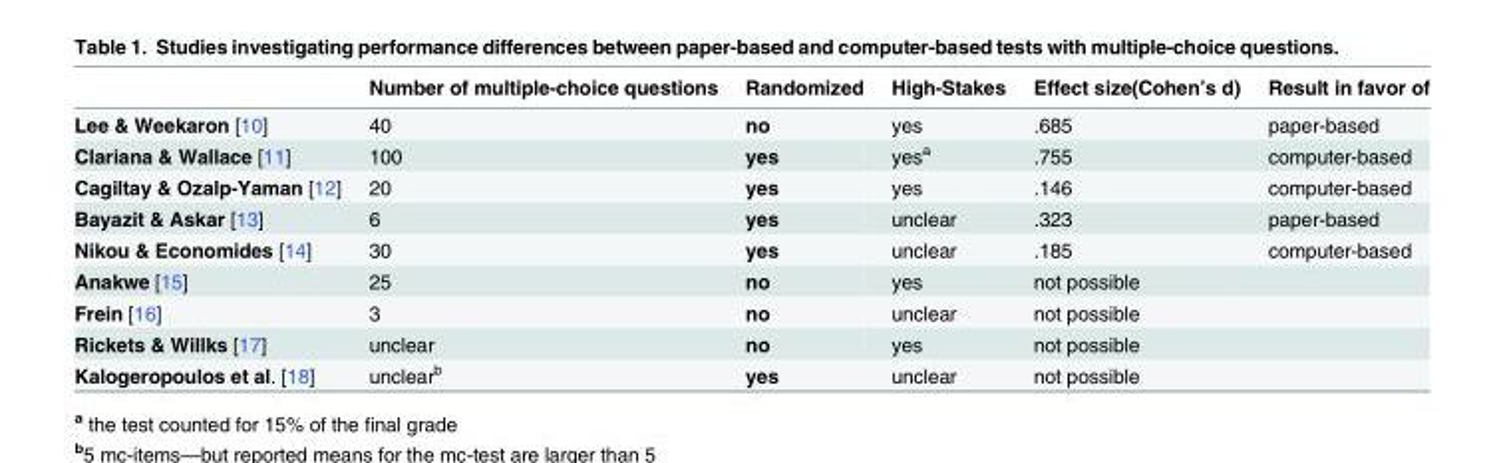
<table><thead><tr><td></td><td>Number of multiple-choice questions</td><td>Randomized</td><td>High-Stakes</td><td>Effect size(Cohen’s d)</td><td>Result in favor of</td></tr></thead><tbody><tr><td>Lee &amp; Weekaron [10]</td><td>40</td><td>no</td><td>yes</td><td>.685</td><td>paper-based</td></tr><tr><td>Clariana &amp; Wallace [11]</td><td>100</td><td>yes</td><td>yes<sup>a</sup></td><td>.755</td><td>computer-based</td></tr><tr><td>Cagiltay &amp; Ozalp-Yaman [12]</td><td>20</td><td>yes</td><td>yes</td><td>.146</td><td>computer-based</td></tr><tr><td>Bayazit &amp; Askar [13]</td><td>6</td><td>yes</td><td>unclear</td><td>.323</td><td>paper-based</td></tr><tr><td>Nikou &amp; Economides [14]</td><td>30</td><td>yes</td><td>unclear</td><td>.185</td><td>computer-based</td></tr><tr><td>Anakwe [15]</td><td>25</td><td>no</td><td>yes</td><td>not possible</td><td></td></tr><tr><td>Frein [16]</td><td>3</td><td>no</td><td>unclear</td><td>not possible</td><td></td></tr><tr><td>Rickets &amp; Willks [17]</td><td>unclear</td><td>no</td><td>yes</td><td>not possible</td><td></td></tr><tr><td>Kalogeropoulos et al. [18]</td><td>unclear<sup>b</sup></td><td>yes</td><td>unclear</td><td>not possible</td><td></td></tr></tbody></table>